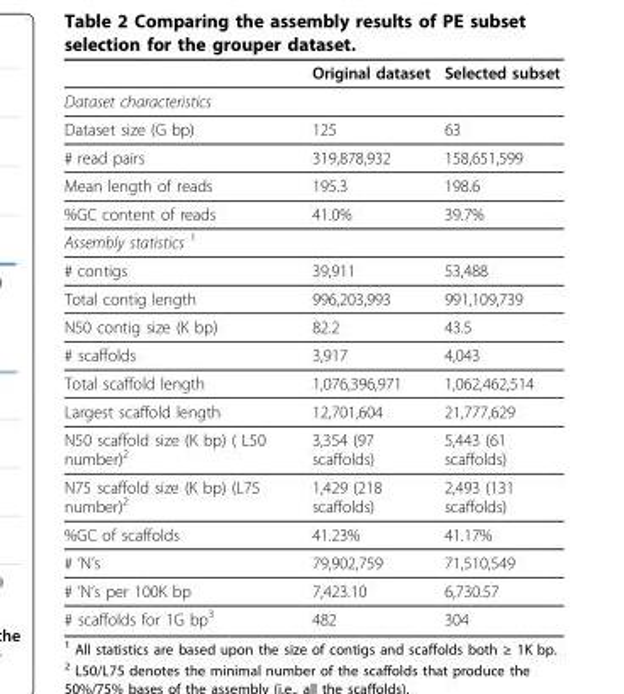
<table><thead><tr><td></td><td>Original dataset</td><td>Selected subset</td></tr></thead><tbody><tr><td colspan="3">Dataset characteristics</td></tr><tr><td>Dataset size (G bp)</td><td>125</td><td>63</td></tr><tr><td># read pairs</td><td>319,878,932</td><td>158,651,599</td></tr><tr><td>Mean length of reads</td><td>195.3</td><td>198.6</td></tr><tr><td>%GC content of reads</td><td>41.0%</td><td>39.7%</td></tr><tr><td colspan="3">Assembly statistics <sup>1</sup></td></tr><tr><td># contigs</td><td>39,911</td><td>53,488</td></tr><tr><td>Total contig length</td><td>996,203,993</td><td>991,109,739</td></tr><tr><td>N50 contig size (K bp)</td><td>82.2</td><td>43.5</td></tr><tr><td># scaffolds</td><td>3,917</td><td>4,043</td></tr><tr><td>Total scaffold length</td><td>1,076,396,971</td><td>1,062,462,514</td></tr><tr><td>Largest scaffold length</td><td>12,701,604</td><td>21,777,629</td></tr><tr><td>N50 scaffold size (K bp) ( L50 number)<sup>2</sup></td><td>3,354 (97 scaffolds)</td><td>5,443 (61 scaffolds)</td></tr><tr><td>N75 scaffold size (K bp) (L75 number)<sup>2</sup></td><td>1,429 (218 scaffolds)</td><td>2,493 (131 scaffolds)</td></tr><tr><td>%GC of scaffolds</td><td>41.23%</td><td>41.17%</td></tr><tr><td># ‘N’s</td><td>79,902,759</td><td>71,510,549</td></tr><tr><td># ‘N’s per 100K bp</td><td>7,423.10</td><td>6,730.57</td></tr><tr><td># scaffolds for 1G bp<sup>3</sup></td><td>482</td><td>304</td></tr></tbody></table>